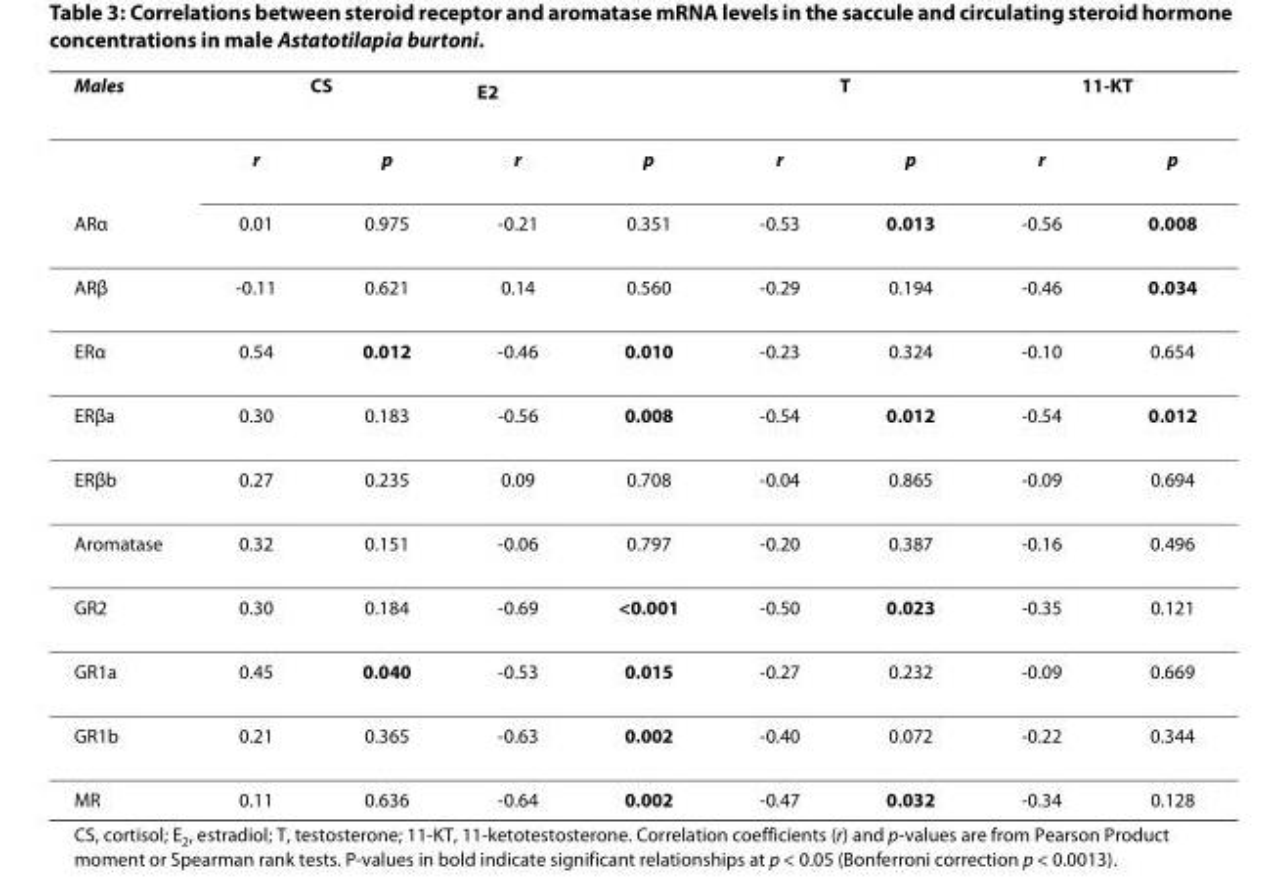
<table><thead><tr><td rowspan="2">Males</td><td colspan="2">CS</td><td colspan="2">E<sub>2</sub></td><td colspan="2">T</td><td colspan="2">11-KT</td></tr><tr><td>r</td><td>p</td><td>r</td><td>p</td><td>r</td><td>p</td><td>r</td><td>p</td></tr></thead><tbody><tr><td>ARα</td><td>0.01</td><td>0.975</td><td>-0.21</td><td>0.351</td><td>-0.53</td><td>0.013</td><td>-0.56</td><td>0.008</td></tr><tr><td>ARβ</td><td>-0.11</td><td>0.621</td><td>0.14</td><td>0.560</td><td>-0.29</td><td>0.194</td><td>-0.46</td><td>0.034</td></tr><tr><td>ERα</td><td>0.54</td><td>0.012</td><td>-0.46</td><td>0.010</td><td>-0.23</td><td>0.324</td><td>-0.10</td><td>0.654</td></tr><tr><td>ERβa</td><td>0.30</td><td>0.183</td><td>-0.56</td><td>0.008</td><td>-0.54</td><td>0.012</td><td>-0.54</td><td>0.012</td></tr><tr><td>ERβb</td><td>0.27</td><td>0.235</td><td>0.09</td><td>0.708</td><td>-0.04</td><td>0.865</td><td>-0.09</td><td>0.694</td></tr><tr><td>Aromatase</td><td>0.32</td><td>0.151</td><td>-0.06</td><td>0.797</td><td>-0.20</td><td>0.387</td><td>-0.16</td><td>0.496</td></tr><tr><td>GR2</td><td>0.30</td><td>0.184</td><td>-0.69</td><td>&lt;0.001</td><td>-0.50</td><td>0.023</td><td>-0.35</td><td>0.121</td></tr><tr><td>GR1a</td><td>0.45</td><td>0.040</td><td>-0.53</td><td>0.015</td><td>-0.27</td><td>0.232</td><td>-0.09</td><td>0.669</td></tr><tr><td>GR1b</td><td>0.21</td><td>0.365</td><td>-0.63</td><td>0.002</td><td>-0.40</td><td>0.072</td><td>-0.22</td><td>0.344</td></tr><tr><td>MR</td><td>0.11</td><td>0.636</td><td>-0.64</td><td>0.002</td><td>-0.47</td><td>0.032</td><td>-0.34</td><td>0.128</td></tr></tbody></table>